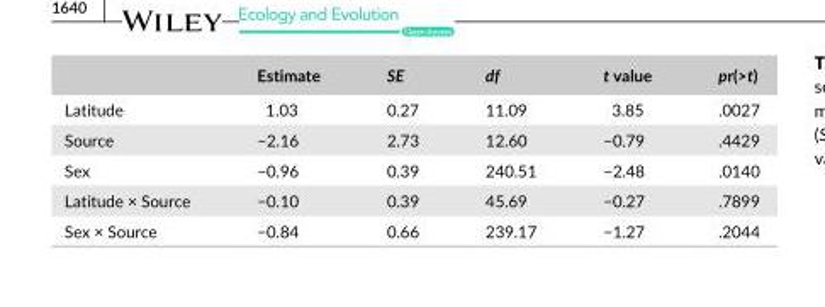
<table><thead><tr><td></td><td>Estimate</td><td>SE</td><td>df</td><td>t value</td><td>pr(&gt;t)</td></tr></thead><tbody><tr><td>Latitude</td><td>1.03</td><td>0.27</td><td>11.09</td><td>3.85</td><td>.0027</td></tr><tr><td>Source</td><td>−2.16</td><td>2.73</td><td>12.60</td><td>−0.79</td><td>.4429</td></tr><tr><td>Sex</td><td>−0.96</td><td>0.39</td><td>240.51</td><td>−2.48</td><td>.0140</td></tr><tr><td>Latitude × Source</td><td>−0.10</td><td>0.39</td><td>45.69</td><td>−0.27</td><td>.7899</td></tr><tr><td>Sex × Source</td><td>−0.84</td><td>0.66</td><td>239.17</td><td>−1.27</td><td>.2044</td></tr></tbody></table>